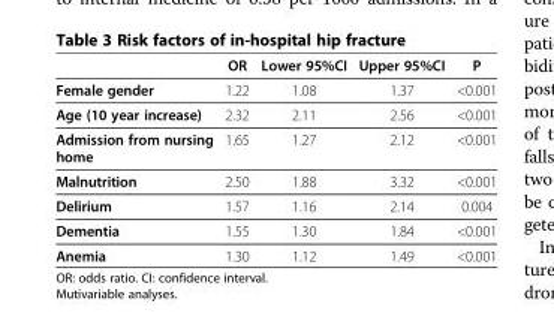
<table><thead><tr><td></td><td>OR</td><td>Lower 95%CI</td><td>Upper 95%CI</td><td>P</td></tr></thead><tbody><tr><td>Female gender</td><td>1.22</td><td>1.08</td><td>1.37</td><td>&lt;0.001</td></tr><tr><td>Age (10 year increase)</td><td>2.32</td><td>2.11</td><td>2.56</td><td>&lt;0.001</td></tr><tr><td>Admission from nursing home</td><td>1.65</td><td>1.27</td><td>2.12</td><td>&lt;0.001</td></tr><tr><td>Malnutrition</td><td>2.50</td><td>1.88</td><td>3.32</td><td>&lt;0.001</td></tr><tr><td>Delirium</td><td>1.57</td><td>1.16</td><td>2.14</td><td>0.004</td></tr><tr><td>Dementia</td><td>1.55</td><td>1.30</td><td>1.84</td><td>&lt;0.001</td></tr><tr><td>Anemia</td><td>1.30</td><td>1.12</td><td>1.49</td><td>&lt;0.001</td></tr></tbody></table>